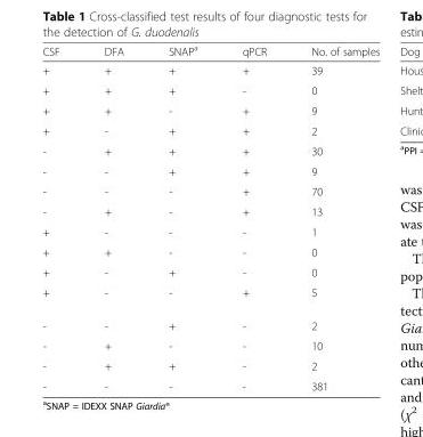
<table><thead><tr><td>CSF</td><td>DFA</td><td>SNAP<sup>a</sup></td><td>qPCR</td><td>No. of samples</td></tr></thead><tbody><tr><td>+</td><td>+</td><td>+</td><td>+</td><td>39</td></tr><tr><td>+</td><td>+</td><td>+</td><td>-</td><td>0</td></tr><tr><td>+</td><td>+</td><td>-</td><td>+</td><td>9</td></tr><tr><td>+</td><td>-</td><td>+</td><td>+</td><td>2</td></tr><tr><td>-</td><td>+</td><td>+</td><td>+</td><td>30</td></tr><tr><td>-</td><td>-</td><td>+</td><td>+</td><td>9</td></tr><tr><td>-</td><td>-</td><td>-</td><td>+</td><td>70</td></tr><tr><td>-</td><td>+</td><td>-</td><td>+</td><td>13</td></tr><tr><td>+</td><td>-</td><td>-</td><td>-</td><td>1</td></tr><tr><td>+</td><td>+</td><td>-</td><td>-</td><td>0</td></tr><tr><td>+</td><td>-</td><td>+</td><td>-</td><td>0</td></tr><tr><td>+</td><td>-</td><td>-</td><td>+</td><td>5</td></tr><tr><td>-</td><td>-</td><td>+</td><td>-</td><td>2</td></tr><tr><td>-</td><td>+</td><td>-</td><td>-</td><td>10</td></tr><tr><td>-</td><td>+</td><td>+</td><td>-</td><td>2</td></tr><tr><td>-</td><td>-</td><td>-</td><td>-</td><td>381</td></tr></tbody></table>